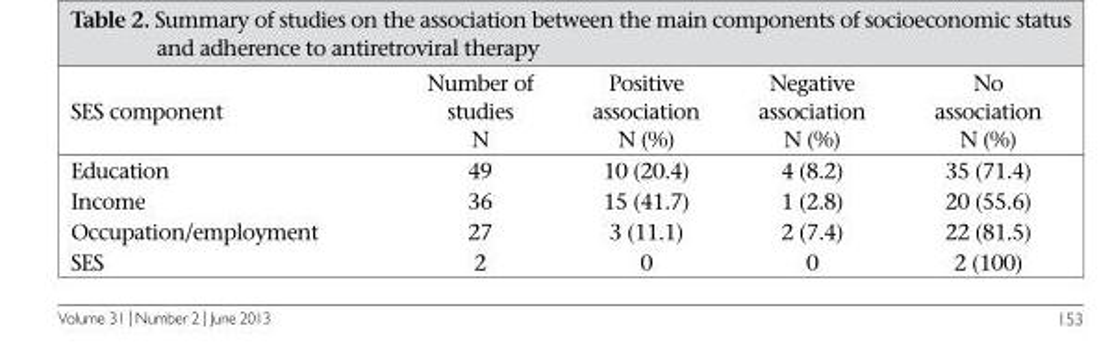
<table><thead><tr><td>SES component</td><td>Number of studies N</td><td>Positive association N (%)</td><td>Negative association N (%)</td><td>No association N (%)</td></tr></thead><tbody><tr><td>Education</td><td>49</td><td>10 (20.4)</td><td>4 (8.2)</td><td>35 (71.4)</td></tr><tr><td>Income</td><td>36</td><td>15 (41.7)</td><td>1 (2.8)</td><td>20 (55.6)</td></tr><tr><td>Occupation/employment</td><td>27</td><td>3 (11.1)</td><td>2 (7.4)</td><td>22 (81.5)</td></tr><tr><td>SES</td><td>2</td><td>0</td><td>0</td><td>2 (100)</td></tr></tbody></table>